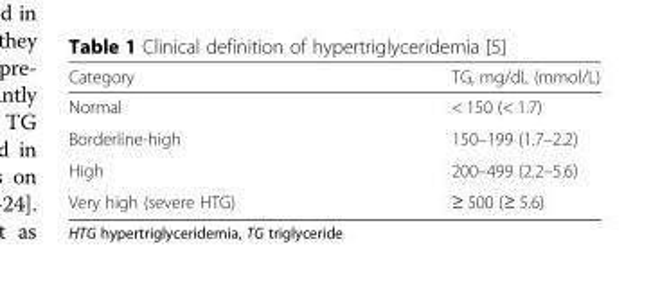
<table><thead><tr><td>Category</td><td>TG, mg/dL (mmol/L)</td></tr></thead><tbody><tr><td>Normal</td><td>&lt; 150 (&lt; 1.7)</td></tr><tr><td>Borderline-high</td><td>150–199 (1.7–2.2)</td></tr><tr><td>High</td><td>200–499 (2.2–5.6)</td></tr><tr><td>Very high (severe HTG)</td><td>≥ 500 (≥ 5.6)</td></tr></tbody></table>